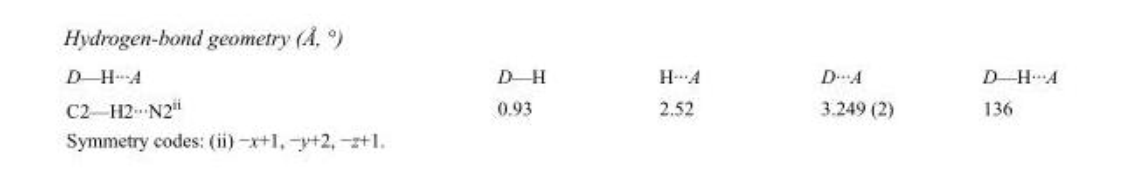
<table><tbody><tr><td>D—H···A</td><td>D—H</td><td>H···A</td><td>D···A</td><td>D—H···A</td></tr><tr><td>C2—H2···N2<sup>ii</sup></td><td>0.93</td><td>2.52</td><td>3.249 (2)</td><td>136</td></tr></tbody></table>